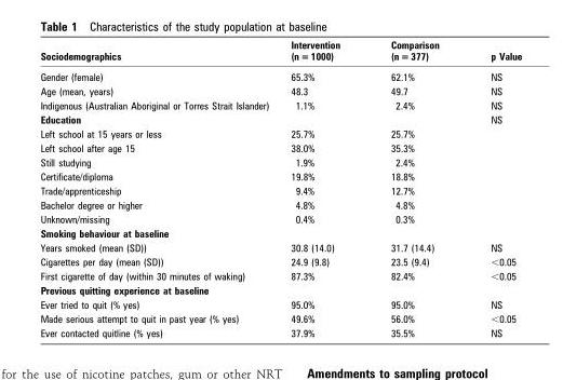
<table><thead><tr><td>Sociodemographics</td><td>Intervention (n = 1000)</td><td>Comparison (n = 377)</td><td>p Value</td></tr></thead><tbody><tr><td>Gender (female)</td><td>65.3%</td><td>62.1%</td><td>NS</td></tr><tr><td>Age (mean, years)</td><td>48.3</td><td>49.7</td><td>NS</td></tr><tr><td>Indigenous (Australian Aboriginal or Torres Strait Islander)</td><td>1.1%</td><td>2.4%</td><td>NS</td></tr><tr><td>Education</td><td></td><td></td><td>NS</td></tr><tr><td>Left school at 15 years or less</td><td>25.7%</td><td>25.7%</td><td></td></tr><tr><td>Left school after age 15</td><td>38.0%</td><td>35.3%</td><td></td></tr><tr><td>Still studying</td><td>1.9%</td><td>2.4%</td><td></td></tr><tr><td>Certificate/diploma</td><td>19.8%</td><td>18.8%</td><td></td></tr><tr><td>Trade/apprenticeship</td><td>9.4%</td><td>12.7%</td><td></td></tr><tr><td>Bachelor degree or higher</td><td>4.8%</td><td>4.8%</td><td></td></tr><tr><td>Unknown/missing</td><td>0.4%</td><td>0.3%</td><td></td></tr><tr><td colspan="4">Smoking behaviour at baseline</td></tr><tr><td>Years smoked (mean (SD))</td><td>30.8 (14.0)</td><td>31.7 (14.4)</td><td>NS</td></tr><tr><td>Cigarettes per day (mean (SD))</td><td>24.9 (9.8)</td><td>23.5 (9.4)</td><td>&lt;0.05</td></tr><tr><td>First cigarette of day (within 30 minutes of waking)</td><td>87.3%</td><td>82.4%</td><td>&lt;0.05</td></tr><tr><td colspan="4">Previous quitting experience at baseline</td></tr><tr><td>Ever tried to quit (% yes)</td><td>95.0%</td><td>95.0%</td><td>NS</td></tr><tr><td>Made serious attempt to quit in past year (% yes)</td><td>49.6%</td><td>56.0%</td><td>&lt;0.05</td></tr><tr><td>Ever contacted quitline (% yes)</td><td>37.9%</td><td>35.5%</td><td>NS</td></tr></tbody></table>